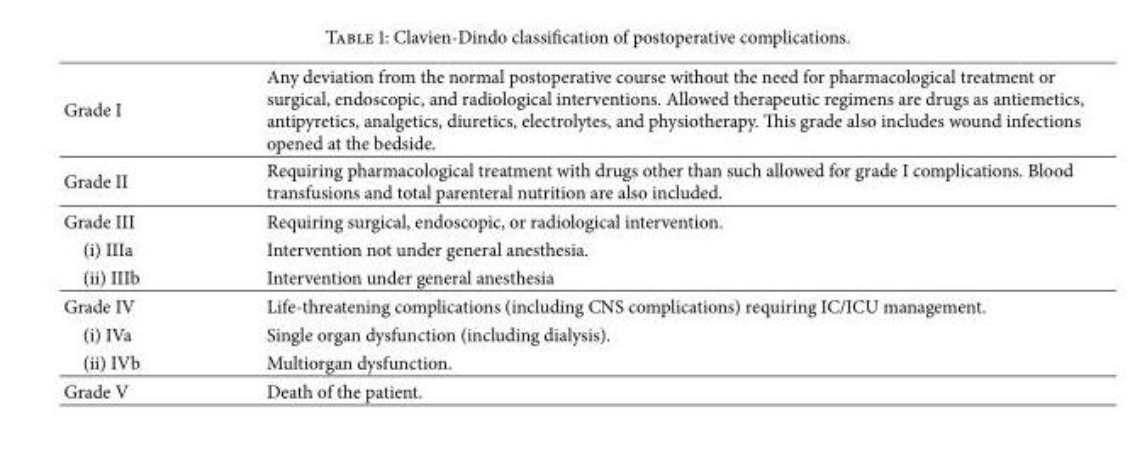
<table><tbody><tr><td>Grade I</td><td>Any deviation from the normal postoperative course without the need for pharmacological treatment or surgical, endoscopic, and radiological interventions. Allowed therapeutic regimens are drugs as antiemetics, antipyretics, analgetics, diuretics, electrolytes, and physiotherapy. This grade also includes wound infections opened at the bedside.</td></tr><tr><td>Grade II</td><td>Requiring pharmacological treatment with drugs other than such allowed for grade I complications. Blood transfusions and total parenteral nutrition are also included.</td></tr><tr><td>Grade III</td><td>Requiring surgical, endoscopic, or radiological intervention.</td></tr><tr><td>(i) IIIa</td><td>Intervention not under general anesthesia.</td></tr><tr><td>(ii) IIIb</td><td>Intervention under general anesthesia</td></tr><tr><td>Grade IV</td><td>Life-threatening complications (including CNS complications) requiring IC/ICU management.</td></tr><tr><td>(i) IVa</td><td>Single organ dysfunction (including dialysis).</td></tr><tr><td>(ii) IVb</td><td>Multiorgan dysfunction.</td></tr><tr><td>Grade V</td><td>Death of the patient.</td></tr></tbody></table>